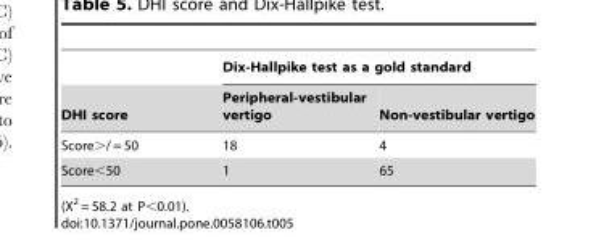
<table><thead><tr><td rowspan="2">DHI score</td><td colspan="2">Dix-Hallpike test as a gold standard</td></tr><tr><td>Peripheral-vestibular vertigo</td><td>Non-vestibular vertigo</td></tr></thead><tbody><tr><td>Score&gt;/ = 50</td><td>18</td><td>4</td></tr><tr><td>Score&lt;50</td><td>1</td><td>65</td></tr></tbody></table>